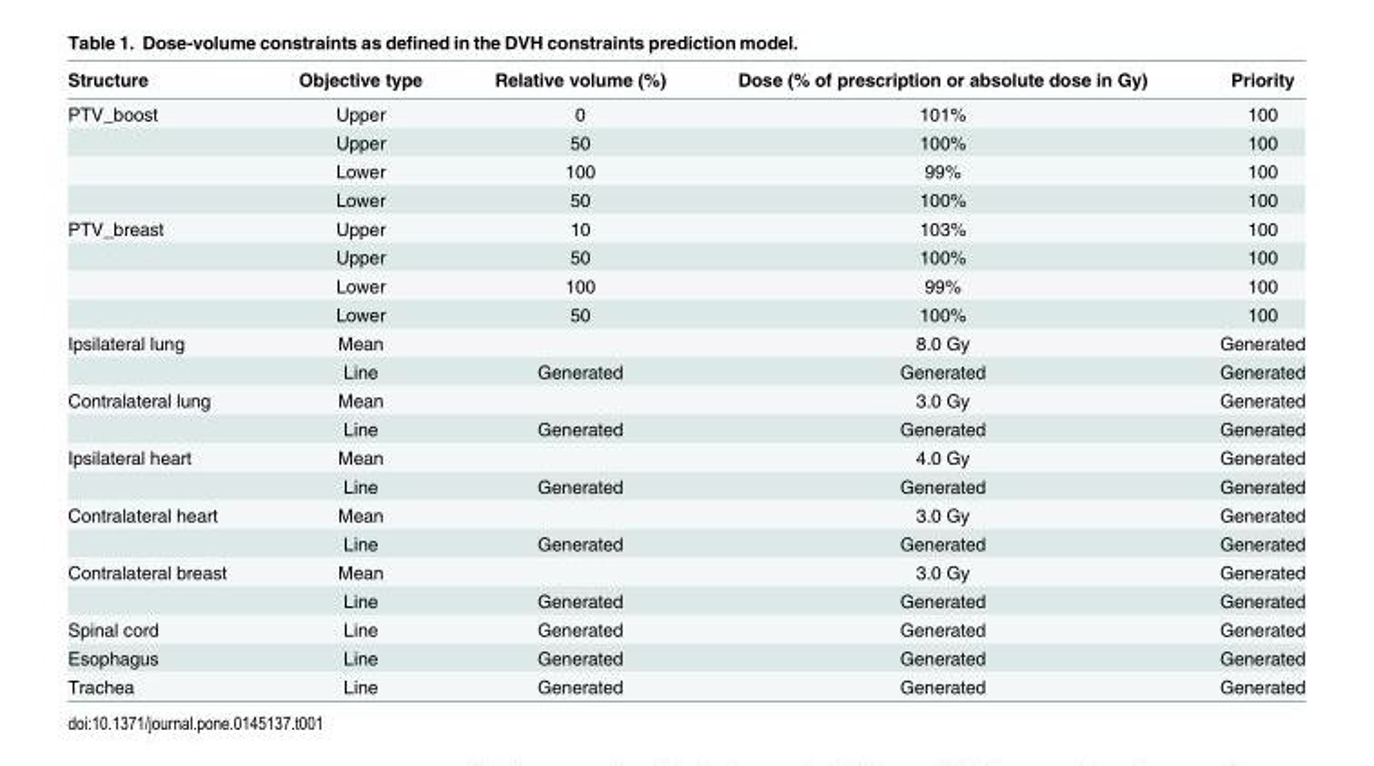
<table><thead><tr><td>Structure</td><td>Objective type</td><td>Relative volume (%)</td><td>Dose (% of prescription or absolute dose in Gy)</td><td>Priority</td></tr></thead><tbody><tr><td rowspan="4">PTV_boost</td><td>Upper</td><td>0</td><td>101%</td><td>100</td></tr><tr><td>Upper</td><td>50</td><td>100%</td><td>100</td></tr><tr><td>Lower</td><td>100</td><td>99%</td><td>100</td></tr><tr><td>Lower</td><td>50</td><td>100%</td><td>100</td></tr><tr><td rowspan="4">PTV_breast</td><td>Upper</td><td>10</td><td>103%</td><td>100</td></tr><tr><td>Upper</td><td>50</td><td>100%</td><td>100</td></tr><tr><td>Lower</td><td>100</td><td>99%</td><td>100</td></tr><tr><td>Lower</td><td>50</td><td>100%</td><td>100</td></tr><tr><td rowspan="2">Ipsilateral lung</td><td>Mean</td><td></td><td>8.0 Gy</td><td>Generated</td></tr><tr><td>Line</td><td>Generated</td><td>Generated</td><td>Generated</td></tr><tr><td rowspan="2">Contralateral lung</td><td>Mean</td><td></td><td>3.0 Gy</td><td>Generated</td></tr><tr><td>Line</td><td>Generated</td><td>Generated</td><td>Generated</td></tr><tr><td rowspan="2">Ipsilateral heart</td><td>Mean</td><td></td><td>4.0 Gy</td><td>Generated</td></tr><tr><td>Line</td><td>Generated</td><td>Generated</td><td>Generated</td></tr><tr><td rowspan="2">Contralateral heart</td><td>Mean</td><td></td><td>3.0 Gy</td><td>Generated</td></tr><tr><td>Line</td><td>Generated</td><td>Generated</td><td>Generated</td></tr><tr><td rowspan="2">Contralateral breast</td><td>Mean</td><td></td><td>3.0 Gy</td><td>Generated</td></tr><tr><td>Line</td><td>Generated</td><td>Generated</td><td>Generated</td></tr><tr><td>Spinal cord</td><td>Line</td><td>Generated</td><td>Generated</td><td>Generated</td></tr><tr><td>Esophagus</td><td>Line</td><td>Generated</td><td>Generated</td><td>Generated</td></tr><tr><td>Trachea</td><td>Line</td><td>Generated</td><td>Generated</td><td>Generated</td></tr></tbody></table>